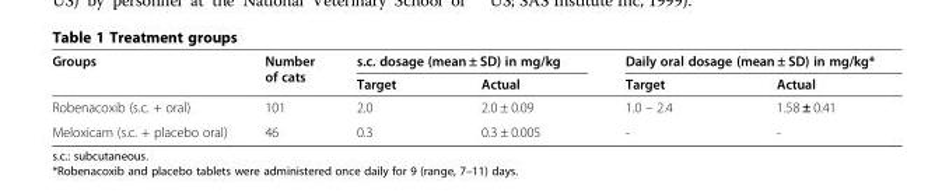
<table><thead><tr><td rowspan="2">Groups</td><td rowspan="2">Number of cats</td><td colspan="2">s.c. dosage (mean ± SD) in mg/kg</td><td colspan="2">Daily oral dosage (mean ± SD) in mg/kg*</td></tr><tr><td>Target</td><td>Actual</td><td>Target</td><td>Actual</td></tr></thead><tbody><tr><td>Robenacoxib (s.c. + oral)</td><td>101</td><td>2.0</td><td>2.0 ± 0.09</td><td>1.0 – 2.4</td><td>1.58 ± 0.41</td></tr><tr><td>Meloxicam (s.c. + placebo oral)</td><td>46</td><td>0.3</td><td>0.3 ± 0.005</td><td>-</td><td>-</td></tr></tbody></table>